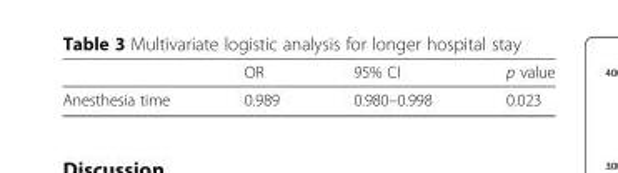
<table><thead><tr><td></td><td>OR</td><td>95% CI</td><td>p value</td></tr></thead><tbody><tr><td>Anesthesia time</td><td>0.989</td><td>0.980–0.998</td><td>0.023</td></tr></tbody></table>